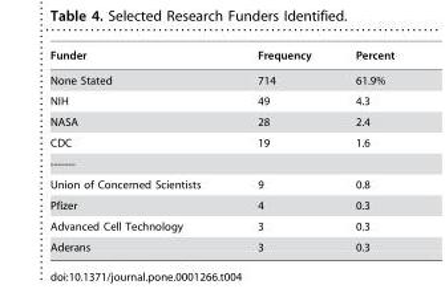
<table><thead><tr><td>Funder</td><td>Frequency</td><td>Percent</td></tr></thead><tbody><tr><td>None Stated</td><td>714</td><td>61.9%</td></tr><tr><td>NIH</td><td>49</td><td>4.3</td></tr><tr><td>NASA</td><td>28</td><td>2.4</td></tr><tr><td>CDC</td><td>19</td><td>1.6</td></tr><tr><td colspan="3">-------</td></tr><tr><td>Union of Concerned Scientists</td><td>9</td><td>0.8</td></tr><tr><td>Pfizer</td><td>4</td><td>0.3</td></tr><tr><td>Advanced Cell Technology</td><td>3</td><td>0.3</td></tr><tr><td>Aderans</td><td>3</td><td>0.3</td></tr></tbody></table>